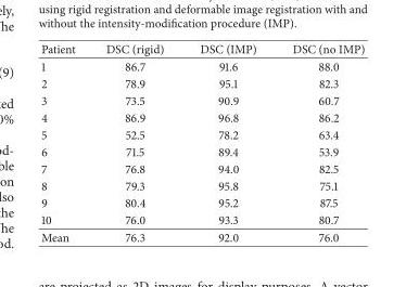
<table><thead><tr><td>Patient</td><td>DSC (rigid)</td><td>DSC (IMP)</td><td>DSC (no IMP)</td></tr></thead><tbody><tr><td>1</td><td>86.7</td><td>91.6</td><td>88.0</td></tr><tr><td>2</td><td>78.9</td><td>95.1</td><td>82.3</td></tr><tr><td>3</td><td>73.5</td><td>90.9</td><td>60.7</td></tr><tr><td>4</td><td>86.9</td><td>96.8</td><td>86.2</td></tr><tr><td>5</td><td>52.5</td><td>78.2</td><td>63.4</td></tr><tr><td>6</td><td>71.5</td><td>89.4</td><td>53.9</td></tr><tr><td>7</td><td>76.8</td><td>94.0</td><td>82.5</td></tr><tr><td>8</td><td>79.3</td><td>95.8</td><td>75.1</td></tr><tr><td>9</td><td>80.4</td><td>95.2</td><td>87.5</td></tr><tr><td>10</td><td>76.0</td><td>93.3</td><td>80.7</td></tr><tr><td>Mean</td><td>76.3</td><td>92.0</td><td>76.0</td></tr></tbody></table>